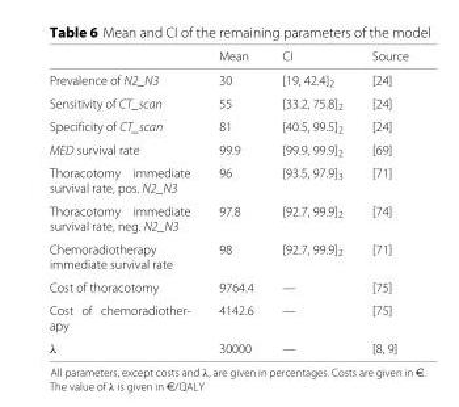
<table><thead><tr><td></td><td>Mean</td><td>CI</td><td>Source</td></tr></thead><tbody><tr><td>Prevalence of N2_N3</td><td>30</td><td>[19, 42.4]<sub>2</sub></td><td>[24]</td></tr><tr><td>Sensitivity of CT_scan</td><td>55</td><td>[33.2, 75.8]<sub>2</sub></td><td>[24]</td></tr><tr><td>Specificity of CT_scan</td><td>81</td><td>[40.5, 99.5]<sub>2</sub></td><td>[24]</td></tr><tr><td>MED survival rate</td><td>99.9</td><td>[99.9, 99.9]<sub>2</sub></td><td>[69]</td></tr><tr><td>Thoracotomy immediate survival rate, pos. N2_N3</td><td>96</td><td>[93.5, 97.9]<sub>3</sub></td><td>[71]</td></tr><tr><td>Thoracotomy immediate survival rate, neg. N2_N3</td><td>97.8</td><td>[92.7, 99.9]<sub>2</sub></td><td>[74]</td></tr><tr><td>Chemoradiotherapy immediate survival rate</td><td>98</td><td>[92.7, 99.9]<sub>2</sub></td><td>[71]</td></tr><tr><td>Cost of thoracotomy</td><td>9764.4</td><td>—</td><td>[75]</td></tr><tr><td>Cost of chemoradiother- apy</td><td>4142.6</td><td>—</td><td>[75]</td></tr><tr><td>λ</td><td>30000</td><td>—</td><td>[8, 9]</td></tr></tbody></table>